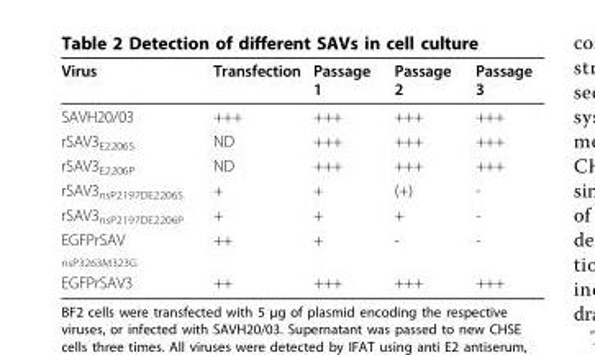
<table><thead><tr><td>Virus</td><td>Transfection</td><td>Passage 1</td><td>Passage 2</td><td>Passage 3</td></tr></thead><tbody><tr><td>SAVH20/03</td><td>+++</td><td>+++</td><td>+++</td><td>+++</td></tr><tr><td>rSAV3<sub>E2206S</sub></td><td>ND</td><td>+++</td><td>+++</td><td>+++</td></tr><tr><td>rSAV3<sub>E2206P</sub></td><td>ND</td><td>+++</td><td>+++</td><td>+++</td></tr><tr><td>rSAV3<sub>nsP2197DE2206S</sub></td><td>+</td><td>+</td><td>(+)</td><td>-</td></tr><tr><td>rSAV3<sub>nsP2197DE2206P</sub></td><td>+</td><td>+</td><td>+</td><td>-</td></tr><tr><td>EGFPrSAV <sub>nsP3263M323G</sub></td><td>++</td><td>+</td><td>-</td><td>-</td></tr><tr><td>EGFPrSAV3</td><td>++</td><td>+++</td><td>+++</td><td>+++</td></tr></tbody></table>